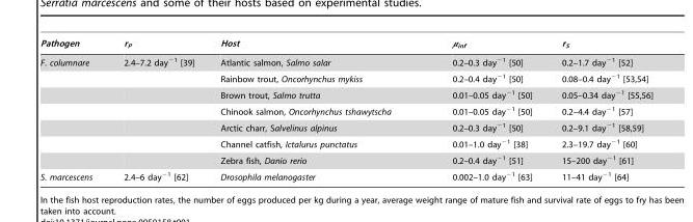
<table><thead><tr><td>Pathogen</td><td>r<sub>P</sub></td><td>Host</td><td>μ<sub>inf</sub></td><td>r<sub>S</sub></td></tr></thead><tbody><tr><td rowspan="7">F. columnare</td><td>2.4–7.2 day<sup>−1</sup> [39]</td><td>Atlantic salmon, Salmo salar</td><td>0.2–0.3 day<sup>−1</sup> [50]</td><td>0.2–1.7 day<sup>−1</sup> [52]</td></tr><tr><td></td><td>Rainbow trout, Oncorhynchus mykiss</td><td>0.2–0.4 day<sup>−1</sup> [50]</td><td>0.08–0.4 day21 [53,54]</td></tr><tr><td></td><td>Brown trout, Salmo trutta</td><td>0.01–0.05 day<sup>−1</sup> [50]</td><td>0.05–0.34 day21 [55,56]</td></tr><tr><td></td><td>Chinook salmon, Oncorhynchus tshawytscha</td><td>0.01–0.05 day<sup>−1</sup> [50]</td><td>0.2–4.4 day<sup>−1</sup> [57]</td></tr><tr><td></td><td>Arctic charr, Salvelinus alpinus</td><td>0.2–0.3 day<sup>−1</sup> [50]</td><td>0.2–9.1 day21 [58,59]</td></tr><tr><td></td><td>Channel catfish, Ictalurus punctatus</td><td>0.01–1.0 day<sup>−1</sup> [38]</td><td>2.3–19.7 day<sup>−1</sup> [60]</td></tr><tr><td></td><td>Zebra fish, Danio rerio</td><td>0.2–0.4 day<sup>−1</sup> [51]</td><td>15–200 day<sup>−1</sup> [61]</td></tr><tr><td>S. marcescens</td><td>2.4–6 day<sup>−1</sup> [62]</td><td>Drosophila melanogaster</td><td>0.002–1.0 day<sup>−1</sup> [63]</td><td>11–41 day<sup>−1</sup> [64]</td></tr></tbody></table>